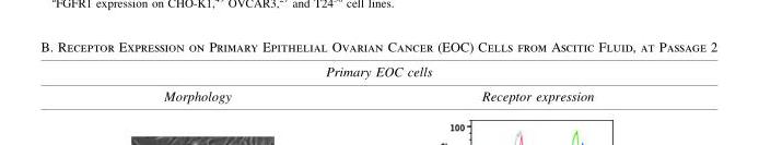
<table><thead><tr><td rowspan="2" colspan="2">B. Receptor Expression on Primary Epithelial Ovarian Cancer (EOC) Cells from Ascitic Fluid, at Passage 2 Primary EOC cells</td></tr><tr></tr><tr><td>Morphology</td><td>Receptor expression</td></tr></thead><tbody></tbody></table>